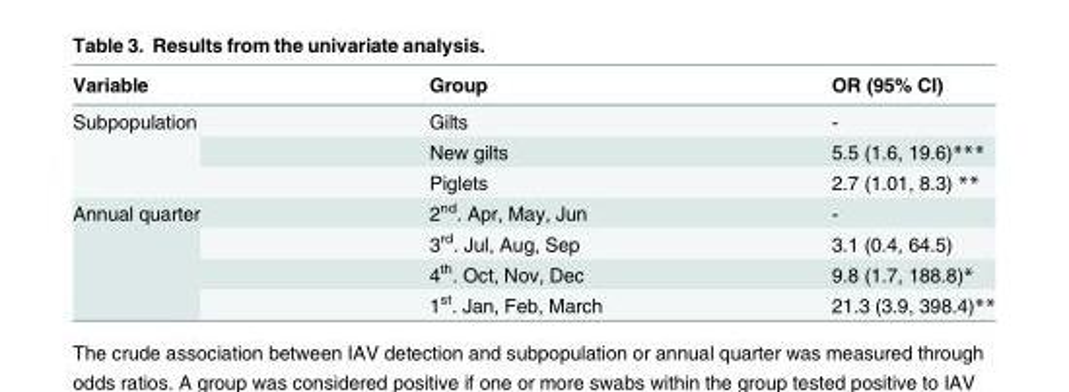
<table><thead><tr><td>Variable</td><td>Group</td><td>OR (95% CI)</td></tr></thead><tbody><tr><td rowspan="3">Subpopulation</td><td>Gilts</td><td>-</td></tr><tr><td>New gilts</td><td>5.5 (1.6, 19.6)***</td></tr><tr><td>Piglets</td><td>2.7 (1.01, 8.3) **</td></tr><tr><td rowspan="4">Annual quarter</td><td>2<sup>nd</sup>. Apr, May, Jun</td><td>-</td></tr><tr><td>3<sup>rd</sup>. Jul, Aug, Sep</td><td>3.1 (0.4, 64.5)</td></tr><tr><td>4<sup>th</sup>. Oct, Nov, Dec</td><td>9.8 (1.7, 188.8)*</td></tr><tr><td>1<sup>st</sup>. Jan, Feb, March</td><td>21.3 (3.9, 398.4)**</td></tr></tbody></table>